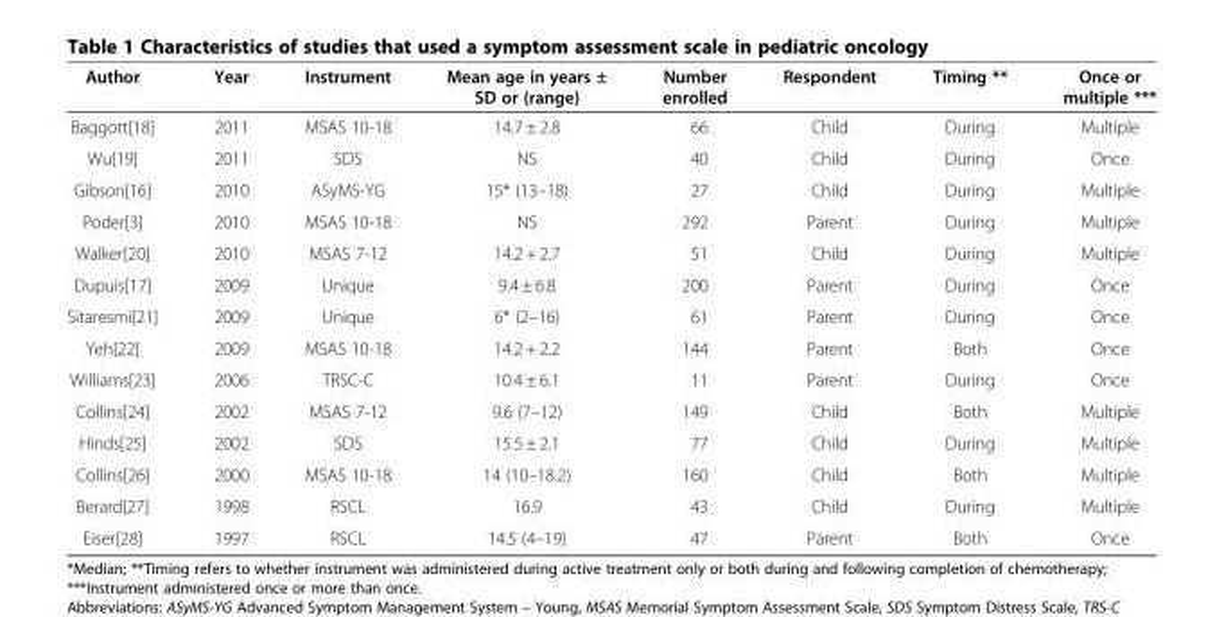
<table><thead><tr><td>Author</td><td>Year</td><td>Instrument</td><td>Mean age in years ± SD or (range)</td><td>Number enrolled</td><td>Respondent</td><td>Timing **</td><td>Once or multiple ***</td></tr></thead><tbody><tr><td>Baggott[18]</td><td>2011</td><td>MSAS 10-18</td><td>14.7 ± 2.8</td><td>66</td><td>Child</td><td>During</td><td>Multiple</td></tr><tr><td>Wu[19]</td><td>2011</td><td>SDS</td><td>NS</td><td>40</td><td>Child</td><td>During</td><td>Once</td></tr><tr><td>Gibson[16]</td><td>2010</td><td>ASyMS-YG</td><td>15* (13–18)</td><td>27</td><td>Child</td><td>During</td><td>Multiple</td></tr><tr><td>Poder[3]</td><td>2010</td><td>MSAS 10-18</td><td>NS</td><td>292</td><td>Parent</td><td>During</td><td>Multiple</td></tr><tr><td>Walker[20]</td><td>2010</td><td>MSAS 7-12</td><td>14.2 + 2.7</td><td>51</td><td>Child</td><td>During</td><td>Multiple</td></tr><tr><td>Dupuis[17]</td><td>2009</td><td>Unique</td><td>9.4 ± 6.8</td><td>200</td><td>Parent</td><td>During</td><td>Once</td></tr><tr><td>Sitaresmi[21]</td><td>2009</td><td>Unique</td><td>6* (2–16)</td><td>61</td><td>Parent</td><td>During</td><td>Once</td></tr><tr><td>Yeh[22]</td><td>2009</td><td>MSAS 10-18</td><td>14.2 + 2.2</td><td>144</td><td>Parent</td><td>Both</td><td>Once</td></tr><tr><td>Williams[23]</td><td>2006</td><td>TRSC-C</td><td>10.4 ± 6.1</td><td>11</td><td>Parent</td><td>During</td><td>Once</td></tr><tr><td>Collins[24]</td><td>2002</td><td>MSAS 7-12</td><td>9.6 (7–12)</td><td>149</td><td>Child</td><td>Both</td><td>Multiple</td></tr><tr><td>Hinds[25]</td><td>2002</td><td>SDS</td><td>15.5 ± 2.1</td><td>77</td><td>Child</td><td>During</td><td>Multiple</td></tr><tr><td>Collins[26]</td><td>2000</td><td>MSAS 10-18</td><td>14 (10–18.2)</td><td>160</td><td>Child</td><td>Both</td><td>Multiple</td></tr><tr><td>Berard[27]</td><td>1998</td><td>RSCL</td><td>16.9</td><td>43</td><td>Child</td><td>During</td><td>Multiple</td></tr><tr><td>Eiser[28]</td><td>1997</td><td>RSCL</td><td>14.5 (4–19)</td><td>47</td><td>Parent</td><td>Both</td><td>Once</td></tr></tbody></table>